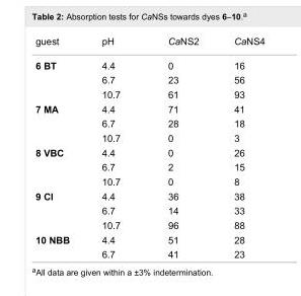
<table><tbody><tr><td>guest</td><td>pH</td><td>CaNS2</td><td>CaNS4</td></tr><tr><td rowspan="3">6 BT</td><td>4.4</td><td>0</td><td>16</td></tr><tr><td>6.7</td><td>23</td><td>56</td></tr><tr><td>10.7</td><td>61</td><td>93</td></tr><tr><td rowspan="3">7 MA</td><td>4.4</td><td>71</td><td>41</td></tr><tr><td>6.7</td><td>28</td><td>18</td></tr><tr><td>10.7</td><td>0</td><td>3</td></tr><tr><td rowspan="3">8 VBC</td><td>4.4</td><td>0</td><td>26</td></tr><tr><td>6.7</td><td>2</td><td>15</td></tr><tr><td>10.7</td><td>0</td><td>8</td></tr><tr><td rowspan="3">9 CI</td><td>4.4</td><td>36</td><td>38</td></tr><tr><td>6.7</td><td>14</td><td>33</td></tr><tr><td>10.7</td><td>96</td><td>88</td></tr><tr><td rowspan="2">10 NBB</td><td>4.4</td><td>51</td><td>28</td></tr><tr><td>6.7</td><td>41</td><td>23</td></tr></tbody></table>